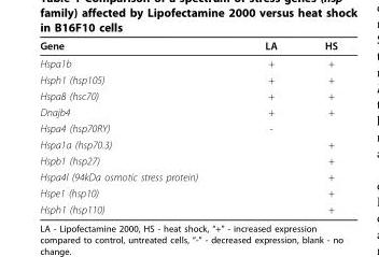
<table><thead><tr><td>Gene</td><td>LA</td><td>HS</td></tr></thead><tbody><tr><td>Hspa1b</td><td>+</td><td>+</td></tr><tr><td>Hsph1 (hsp105)</td><td>+</td><td>+</td></tr><tr><td>Hspa8 (hsc70)</td><td>+</td><td>+</td></tr><tr><td>Dnajb4</td><td>+</td><td>+</td></tr><tr><td>Hspa4 (hsp70RY)</td><td>-</td><td></td></tr><tr><td>Hspa1a (hsp70.3)</td><td></td><td>+</td></tr><tr><td>Hspb1 (hsp27)</td><td></td><td>+</td></tr><tr><td>Hspa4l (94kDa osmotic stress protein)</td><td></td><td>+</td></tr><tr><td>Hspe1 (hsp10)</td><td></td><td>+</td></tr><tr><td>Hsph1 (hsp110)</td><td></td><td>+</td></tr></tbody></table>